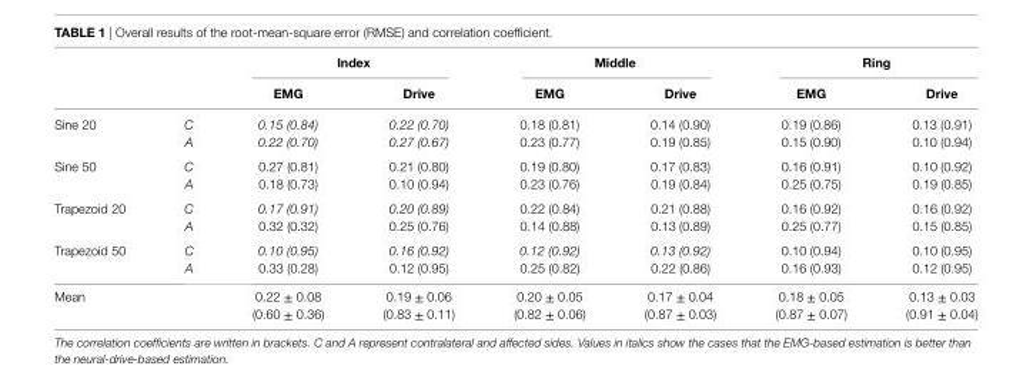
<table><thead><tr><td rowspan="2"></td><td rowspan="2"></td><td colspan="2">Index</td><td colspan="2">Middle</td><td colspan="2">Ring</td></tr><tr><td>eMg</td><td>Drive</td><td>eMg</td><td>Drive</td><td>eMg</td><td>Drive</td></tr></thead><tbody><tr><td rowspan="2">Sine 20</td><td>C</td><td>0.15 (0.84)</td><td>0.22 (0.70)</td><td>0.18 (0.81)</td><td>0.14 (0.90)</td><td>0.19 (0.86)</td><td>0.13 (0.91)</td></tr><tr><td>A</td><td>0.22 (0.70)</td><td>0.27 (0.67)</td><td>0.23 (0.77)</td><td>0.19 (0.85)</td><td>0.15 (0.90)</td><td>0.10 (0.94)</td></tr><tr><td rowspan="2">Sine 50</td><td>C</td><td>0.27 (0.81)</td><td>0.21 (0.80)</td><td>0.19 (0.80)</td><td>0.17 (0.83)</td><td>0.16 (0.91)</td><td>0.10 (0.92)</td></tr><tr><td>A</td><td>0.18 (0.73)</td><td>0.10 (0.94)</td><td>0.23 (0.76)</td><td>0.19 (0.84)</td><td>0.25 (0.75)</td><td>0.19 (0.85)</td></tr><tr><td rowspan="2">Trapezoid 20</td><td>C</td><td>0.17 (0.91)</td><td>0.20 (0.89)</td><td>0.22 (0.84)</td><td>0.21 (0.88)</td><td>0.16 (0.92)</td><td>0.16 (0.92)</td></tr><tr><td>A</td><td>0.32 (0.32)</td><td>0.25 (0.76)</td><td>0.14 (0.88)</td><td>0.13 (0.89)</td><td>0.25 (0.77)</td><td>0.15 (0.85)</td></tr><tr><td rowspan="2">Trapezoid 50</td><td>C</td><td>0.10 (0.95)</td><td>0.16 (0.92)</td><td>0.12 (0.92)</td><td>0.13 (0.92)</td><td>0.10 (0.94)</td><td>0.10 (0.95)</td></tr><tr><td>A</td><td>0.33 (0.28)</td><td>0.12 (0.95)</td><td>0.25 (0.82)</td><td>0.22 (0.86)</td><td>0.16 (0.93)</td><td>0.12 (0.95)</td></tr><tr><td colspan="2">Mean</td><td>0.22 ± 0.08 (0.60 ± 0.36)</td><td>0.19 ± 0.06 (0.83 ± 0.11)</td><td>0.20 ± 0.05 (0.82 ± 0.06)</td><td>0.17 ± 0.04 (0.87 ± 0.03)</td><td>0.18 ± 0.05 (0.87 ± 0.07)</td><td>0.13 ± 0.03 (0.91 ± 0.04)</td></tr></tbody></table>